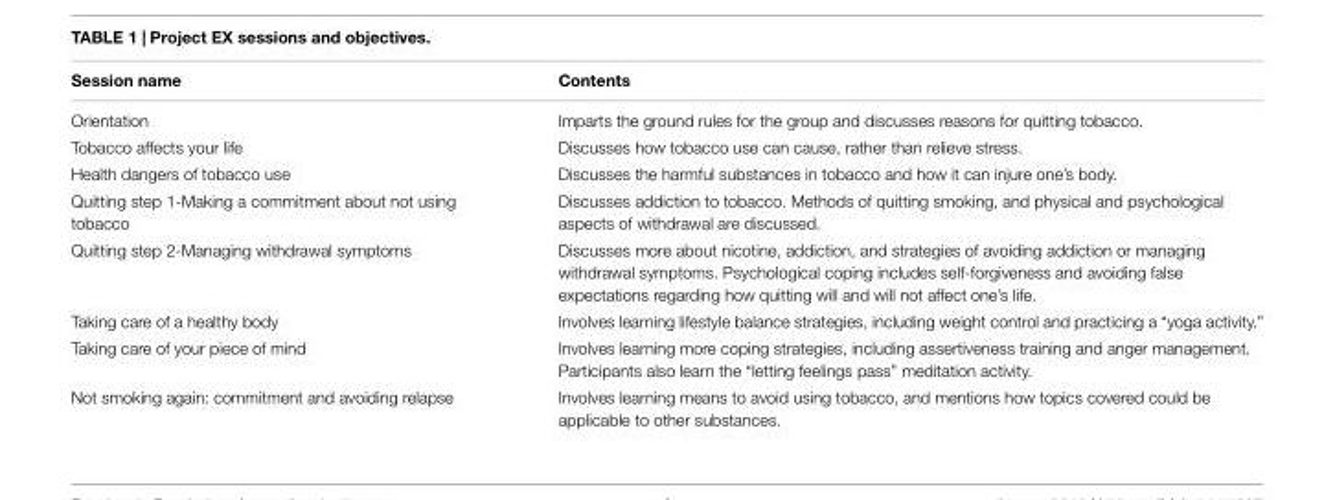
<table><thead><tr><td>Session name</td><td>Contents</td></tr></thead><tbody><tr><td>Orientation</td><td>Imparts the ground rules for the group and discusses reasons for quitting tobacco.</td></tr><tr><td>Tobacco affects your life</td><td>Discusses how tobacco use can cause, rather than relieve stress.</td></tr><tr><td>Health dangers of tobacco use</td><td>Discusses the harmful substances in tobacco and how it can injure one’s body.</td></tr><tr><td>Quitting step 1-Making a commitment about not using tobacco</td><td>Discusses addiction to tobacco. Methods of quitting smoking, and physical and psychological aspects of withdrawal are discussed.</td></tr><tr><td>Quitting step 2-Managing withdrawal symptoms</td><td>Discusses more about nicotine, addiction, and strategies of avoiding addiction or managing withdrawal symptoms. Psychological coping includes self-forgiveness and avoiding false expectations regarding how quitting will and will not affect one’s life.</td></tr><tr><td>Taking care of a healthy body</td><td>Involves learning lifestyle balance strategies, including weight control and practicing a “yoga activity.”</td></tr><tr><td>Taking care of your piece of mind</td><td>Involves learning more coping strategies, including assertiveness training and anger management. Participants also learn the “letting feelings pass” meditation activity.</td></tr><tr><td>Not smoking again: commitment and avoiding relapse</td><td>Involves learning means to avoid using tobacco, and mentions how topics covered could be applicable to other substances.</td></tr></tbody></table>